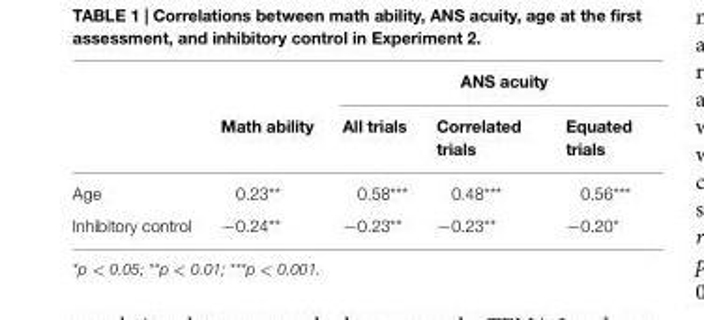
<table><thead><tr><td rowspan="2"></td><td rowspan="2">Math ability</td><td colspan="3">ANS acuity</td></tr><tr><td>All trials</td><td>Correlated trials</td><td>Equated trials</td></tr></thead><tbody><tr><td>Age</td><td>0.23**</td><td>0.58***</td><td>0.48***</td><td>0.56***</td></tr><tr><td>Inhibitory control</td><td>−0.24**</td><td>−0.23**</td><td>−0.23**</td><td>−0.20*</td></tr></tbody></table>